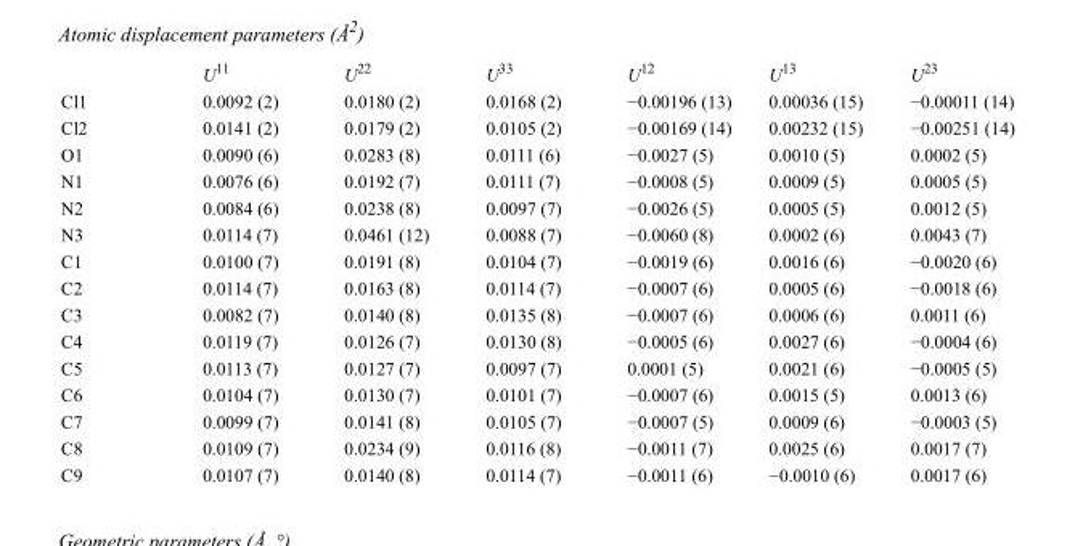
<table><thead><tr><td></td><td>U<sup>11</sup></td><td>U<sup>22</sup></td><td>U<sup>33</sup></td><td>U<sup>12</sup></td><td>U<sup>13</sup></td><td>U<sup>23</sup></td></tr></thead><tbody><tr><td>Cl1</td><td>0.0092 (2)</td><td>0.0180 (2)</td><td>0.0168 (2)</td><td>−0.00196 (13)</td><td>0.00036 (15)</td><td>−0.00011 (14)</td></tr><tr><td>Cl2</td><td>0.0141 (2)</td><td>0.0179 (2)</td><td>0.0105 (2)</td><td>−0.00169 (14)</td><td>0.00232 (15)</td><td>−0.00251 (14)</td></tr><tr><td>O1</td><td>0.0090 (6)</td><td>0.0283 (8)</td><td>0.0111 (6)</td><td>−0.0027 (5)</td><td>0.0010 (5)</td><td>0.0002 (5)</td></tr><tr><td>N1</td><td>0.0076 (6)</td><td>0.0192 (7)</td><td>0.0111 (7)</td><td>−0.0008 (5)</td><td>0.0009 (5)</td><td>0.0005 (5)</td></tr><tr><td>N2</td><td>0.0084 (6)</td><td>0.0238 (8)</td><td>0.0097 (7)</td><td>−0.0026 (5)</td><td>0.0005 (5)</td><td>0.0012 (5)</td></tr><tr><td>N3</td><td>0.0114 (7)</td><td>0.0461 (12)</td><td>0.0088 (7)</td><td>−0.0060 (8)</td><td>0.0002 (6)</td><td>0.0043 (7)</td></tr><tr><td>C1</td><td>0.0100 (7)</td><td>0.0191 (8)</td><td>0.0104 (7)</td><td>−0.0019 (6)</td><td>0.0016 (6)</td><td>−0.0020 (6)</td></tr><tr><td>C2</td><td>0.0114 (7)</td><td>0.0163 (8)</td><td>0.0114 (7)</td><td>−0.0007 (6)</td><td>0.0005 (6)</td><td>−0.0018 (6)</td></tr><tr><td>C3</td><td>0.0082 (7)</td><td>0.0140 (8)</td><td>0.0135 (8)</td><td>−0.0007 (6)</td><td>0.0006 (6)</td><td>0.0011 (6)</td></tr><tr><td>C4</td><td>0.0119 (7)</td><td>0.0126 (7)</td><td>0.0130 (8)</td><td>−0.0005 (6)</td><td>0.0027 (6)</td><td>−0.0004 (6)</td></tr><tr><td>C5</td><td>0.0113 (7)</td><td>0.0127 (7)</td><td>0.0097 (7)</td><td>0.0001 (5)</td><td>0.0021 (6)</td><td>−0.0005 (5)</td></tr><tr><td>C6</td><td>0.0104 (7)</td><td>0.0130 (7)</td><td>0.0101 (7)</td><td>−0.0007 (6)</td><td>0.0015 (5)</td><td>0.0013 (6)</td></tr><tr><td>C7</td><td>0.0099 (7)</td><td>0.0141 (8)</td><td>0.0105 (7)</td><td>−0.0007 (5)</td><td>0.0009 (6)</td><td>−0.0003 (5)</td></tr><tr><td>C8</td><td>0.0109 (7)</td><td>0.0234 (9)</td><td>0.0116 (8)</td><td>−0.0011 (7)</td><td>0.0025 (6)</td><td>0.0017 (7)</td></tr><tr><td>C9</td><td>0.0107 (7)</td><td>0.0140 (8)</td><td>0.0114 (7)</td><td>−0.0011 (6)</td><td>−0.0010 (6)</td><td>0.0017 (6)</td></tr></tbody></table>